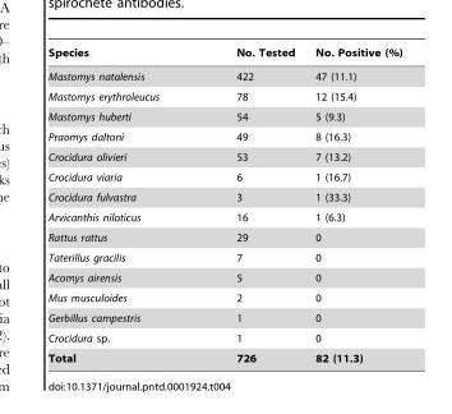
<table><thead><tr><td>Species</td><td>No. Tested</td><td>No. Positive (%)</td></tr></thead><tbody><tr><td>Mastomys natalensis</td><td>422</td><td>47 (11.1)</td></tr><tr><td>Mastomys erythroleucus</td><td>78</td><td>12 (15.4)</td></tr><tr><td>Mastomys huberti</td><td>54</td><td>5 (9.3)</td></tr><tr><td>Praomys daltoni</td><td>49</td><td>8 (16.3)</td></tr><tr><td>Crocidura olivieri</td><td>53</td><td>7 (13.2)</td></tr><tr><td>Crocidura viaria</td><td>6</td><td>1 (16.7)</td></tr><tr><td>Crocidura fulvastra</td><td>3</td><td>1 (33.3)</td></tr><tr><td>Arvicanthis niloticus</td><td>16</td><td>1 (6.3)</td></tr><tr><td>Rattus rattus</td><td>29</td><td>0</td></tr><tr><td>Taterillus gracilis</td><td>7</td><td>0</td></tr><tr><td>Acomys airensis</td><td>5</td><td>0</td></tr><tr><td>Mus musculoides</td><td>2</td><td>0</td></tr><tr><td>Gerbillus campestris</td><td>1</td><td>0</td></tr><tr><td>Crocidura sp.</td><td>1</td><td>0</td></tr><tr><td>Total</td><td>726</td><td>82 (11.3)</td></tr></tbody></table>